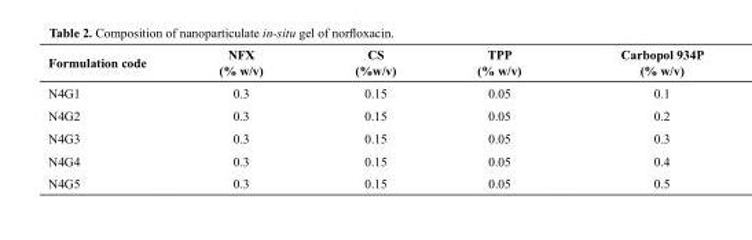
<table><thead><tr><td>Formulation code</td><td>NFX (% w/v)</td><td>CS (%w/v)</td><td>TPP (% w/v)</td><td>Carbopol 934P (% w/v)</td></tr></thead><tbody><tr><td>N4G1</td><td>0.3</td><td>0.15</td><td>0.05</td><td>0.1</td></tr><tr><td>N4G2</td><td>0.3</td><td>0.15</td><td>0.05</td><td>0.2</td></tr><tr><td>N4G3</td><td>0.3</td><td>0.15</td><td>0.05</td><td>0.3</td></tr><tr><td>N4G4</td><td>0.3</td><td>0.15</td><td>0.05</td><td>0.4</td></tr><tr><td>N4G5</td><td>0.3</td><td>0.15</td><td>0.05</td><td>0.5</td></tr></tbody></table>